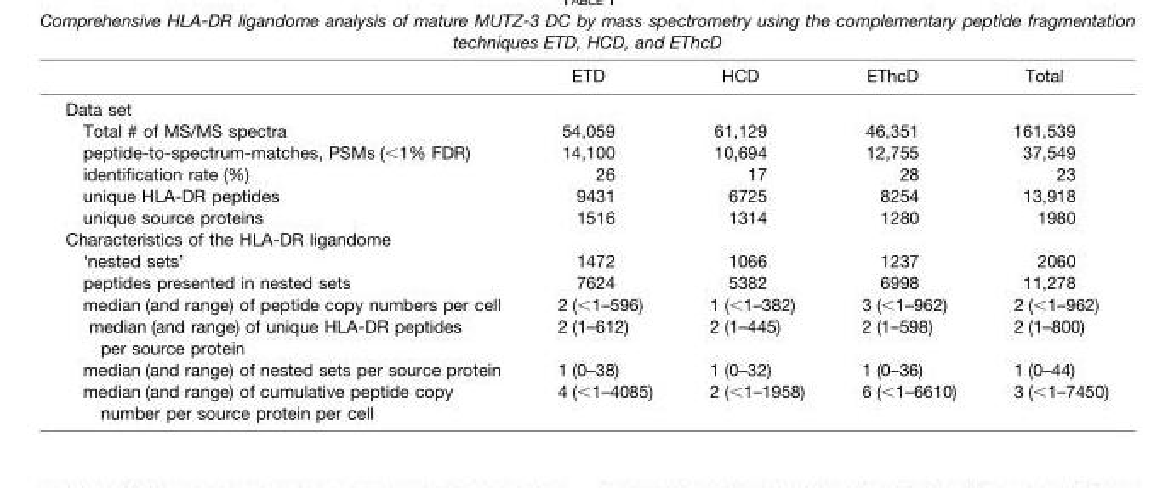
<table><thead><tr><td></td><td>ETD</td><td>HCD</td><td>EThcD</td><td>Total</td></tr></thead><tbody><tr><td colspan="5">Data set</td></tr><tr><td>Total # of MS/MS spectra</td><td>54,059</td><td>61,129</td><td>46,351</td><td>161,539</td></tr><tr><td>peptide-to-spectrum-matches, PSMs (&lt;1% FDR)</td><td>14,100</td><td>10,694</td><td>12,755</td><td>37,549</td></tr><tr><td>identification rate (%)</td><td>26</td><td>17</td><td>28</td><td>23</td></tr><tr><td>unique HLA-DR peptides</td><td>9431</td><td>6725</td><td>8254</td><td>13,918</td></tr><tr><td>unique source proteins</td><td>1516</td><td>1314</td><td>1280</td><td>1980</td></tr><tr><td colspan="5">Characteristics of the HLA-DR ligandome</td></tr><tr><td>‘nested sets’</td><td>1472</td><td>1066</td><td>1237</td><td>2060</td></tr><tr><td>peptides presented in nested sets</td><td>7624</td><td>5382</td><td>6998</td><td>11,278</td></tr><tr><td>median (and range) of peptide copy numbers per cell</td><td>2 (&lt;1–596)</td><td>1 (&lt;1–382)</td><td>3 (&lt;1–962)</td><td>2 (&lt;1–962)</td></tr><tr><td>median (and range) of unique HLA-DR peptides per source protein</td><td>2 (1–612)</td><td>2 (1–445)</td><td>2 (1–598)</td><td>2 (1–800)</td></tr><tr><td>median (and range) of nested sets per source protein</td><td>1 (0–38)</td><td>1 (0–32)</td><td>1 (0–36)</td><td>1 (0–44)</td></tr><tr><td>median (and range) of cumulative peptide copy number per source protein per cell</td><td>4 (&lt;1–4085)</td><td>2 (&lt;1–1958)</td><td>6 (&lt;1–6610)</td><td>3 (&lt;1–7450)</td></tr></tbody></table>